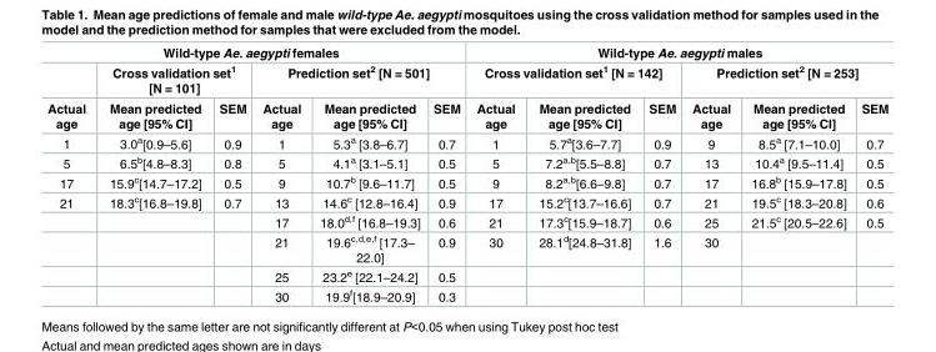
<table><thead><tr><td colspan="6">Wild-type Ae. aegypti females</td><td colspan="6">Wild-type Ae. aegypti males</td></tr><tr><td rowspan="2">Actual age</td><td colspan="2">Cross validation set<sup>1</sup> [N = 101]</td><td colspan="3">Prediction set<sup>2</sup> [N = 501]</td><td colspan="3">Cross validation set<sup>1</sup> [N = 142]</td><td colspan="3">Prediction set<sup>2</sup> [N = 253]</td></tr><tr><td>Mean predicted age [95% CI]</td><td>SEM</td><td>Actual age</td><td>Mean predicted age [95% CI]</td><td>SEM</td><td>Actual age</td><td>Mean predicted age [95% CI]</td><td>SEM</td><td>Actual age</td><td>Mean predicted age [95% CI]</td><td>SEM</td></tr></thead><tbody><tr><td>1</td><td>3.0<sup>a</sup>[0.9–5.6]</td><td>0.9</td><td>1</td><td>5.3<sup>a</sup> [3.8–6.7]</td><td>0.7</td><td>1</td><td>5.7<sup>a</sup>[3.6–7.7]</td><td>0.9</td><td>9</td><td>8.5<sup>a</sup> [7.1–10.0]</td><td>0.7</td></tr><tr><td>5</td><td>6.5<sup>b</sup>[4.8–8.3]</td><td>0.8</td><td>5</td><td>4.1<sup>a</sup> [3.1–5.1]</td><td>0.5</td><td>5</td><td>7.2<sup>a,b</sup>[5.5–8.8]</td><td>0.7</td><td>13</td><td>10.4<sup>a</sup> [9.5–11.4]</td><td>0.5</td></tr><tr><td>17</td><td>15.9<sup>c</sup>[14.7–17.2]</td><td>0.5</td><td>9</td><td>10.7<sup>b</sup> [9.6–11.7]</td><td>0.5</td><td>9</td><td>8.2<sup>a,b</sup>[6.6–9.8]</td><td>0.7</td><td>17</td><td>16.8<sup>b</sup> [15.9–17.8]</td><td>0.5</td></tr><tr><td rowspan="5">21</td><td>18.3<sup>c</sup>[16.8–19.8]</td><td>0.7</td><td>13</td><td>14.6<sup>c</sup> [12.8–16.4]</td><td>0.9</td><td>17</td><td>15.2<sup>c</sup>[13.7–16.6]</td><td>0.7</td><td>21</td><td>19.5<sup>c</sup> [18.3–20.8]</td><td>0.6</td></tr><tr><td></td><td></td><td>17</td><td>18.0<sup>d,f</sup> [16.8–19.3]</td><td>0.6</td><td>21</td><td>17.3<sup>c</sup>[15.9–18.7]</td><td>0.6</td><td>25</td><td>21.5<sup>c</sup> [20.5–22.6]</td><td>0.5</td></tr><tr><td></td><td></td><td>21</td><td>19.6<sup>c,d,e,f</sup> [17.3– 22.0]</td><td>0.9</td><td>30</td><td>28.1<sup>d</sup>[24.8–31.8]</td><td>1.6</td><td>30</td><td></td><td></td></tr><tr><td></td><td></td><td>25</td><td>23.2<sup>e</sup> [22.1–24.2]</td><td>0.5</td><td></td><td></td><td></td><td></td><td></td><td></td></tr><tr><td></td><td></td><td>30</td><td>19.9<sup>f</sup>[18.9–20.9]</td><td>0.3</td><td></td><td></td><td></td><td></td><td></td><td></td></tr></tbody></table>